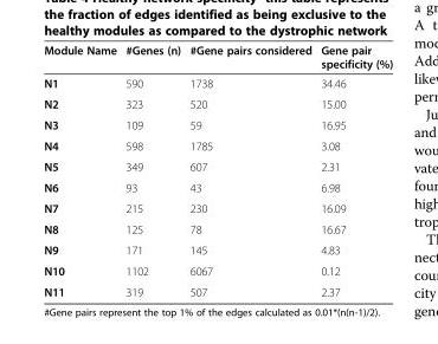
<table><thead><tr><td>Module Name</td><td>#Genes (n)</td><td>#Gene pairs considered</td><td>Gene pair specificity (%)</td></tr></thead><tbody><tr><td>N1</td><td>590</td><td>1738</td><td>34.46</td></tr><tr><td>N2</td><td>323</td><td>520</td><td>15.00</td></tr><tr><td>N3</td><td>109</td><td>59</td><td>16.95</td></tr><tr><td>N4</td><td>598</td><td>1785</td><td>3.08</td></tr><tr><td>N5</td><td>349</td><td>607</td><td>2.31</td></tr><tr><td>N6</td><td>93</td><td>43</td><td>6.98</td></tr><tr><td>N7</td><td>215</td><td>230</td><td>16.09</td></tr><tr><td>N8</td><td>125</td><td>78</td><td>16.67</td></tr><tr><td>N9</td><td>171</td><td>145</td><td>4.83</td></tr><tr><td>N10</td><td>1102</td><td>6067</td><td>0.12</td></tr><tr><td>N11</td><td>319</td><td>507</td><td>2.37</td></tr></tbody></table>